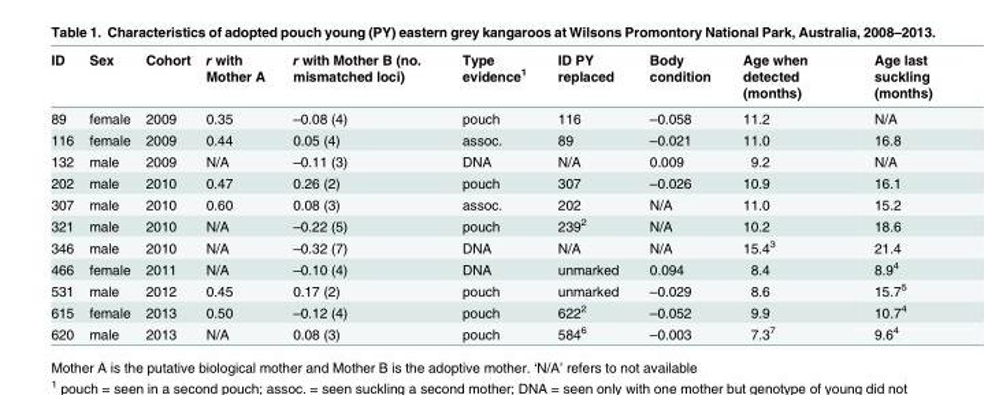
<table><thead><tr><td>ID</td><td>Sex</td><td>Cohort</td><td>r with Mother A</td><td>r with Mother B (no. mismatched loci)</td><td>Type evidence<sup>1</sup></td><td>ID PY replaced</td><td>Body condition</td><td>Age when detected (months)</td><td>Age last suckling (months)</td></tr></thead><tbody><tr><td>89</td><td>female</td><td>2009</td><td>0.35</td><td>–0.08 (4)</td><td>pouch</td><td>116</td><td>–0.058</td><td>11.2</td><td>N/A</td></tr><tr><td>116</td><td>female</td><td>2009</td><td>0.44</td><td>0.05 (4)</td><td>assoc.</td><td>89</td><td>–0.021</td><td>11.0</td><td>16.8</td></tr><tr><td>132</td><td>male</td><td>2009</td><td>N/A</td><td>–0.11 (3)</td><td>DNA</td><td>N/A</td><td>0.009</td><td>9.2</td><td>N/A</td></tr><tr><td>202</td><td>male</td><td>2010</td><td>0.47</td><td>0.26 (2)</td><td>pouch</td><td>307</td><td>–0.026</td><td>10.9</td><td>16.1</td></tr><tr><td>307</td><td>male</td><td>2010</td><td>0.60</td><td>0.08 (3)</td><td>assoc.</td><td>202</td><td>N/A</td><td>11.0</td><td>15.2</td></tr><tr><td>321</td><td>male</td><td>2010</td><td>N/A</td><td>–0.22 (5)</td><td>pouch</td><td>239<sup>2</sup></td><td>N/A</td><td>10.2</td><td>18.6</td></tr><tr><td>346</td><td>male</td><td>2010</td><td>N/A</td><td>–0.32 (7)</td><td>DNA</td><td>N/A</td><td>N/A</td><td>15.4<sup>3</sup></td><td>21.4</td></tr><tr><td>466</td><td>female</td><td>2011</td><td>N/A</td><td>–0.10 (4)</td><td>DNA</td><td>unmarked</td><td>0.094</td><td>8.4</td><td>8.9<sup>4</sup></td></tr><tr><td>531</td><td>male</td><td>2012</td><td>0.45</td><td>0.17 (2)</td><td>pouch</td><td>unmarked</td><td>–0.029</td><td>8.6</td><td>15.7<sup>5</sup></td></tr><tr><td>615</td><td>female</td><td>2013</td><td>0.50</td><td>–0.12 (4)</td><td>pouch</td><td>622<sup>2</sup></td><td>–0.052</td><td>9.9</td><td>10.7<sup>4</sup></td></tr><tr><td>620</td><td>male</td><td>2013</td><td>N/A</td><td>0.08 (3)</td><td>pouch</td><td>584<sup>6</sup></td><td>–0.003</td><td>7.3<sup>7</sup></td><td>9.6<sup>4</sup></td></tr></tbody></table>